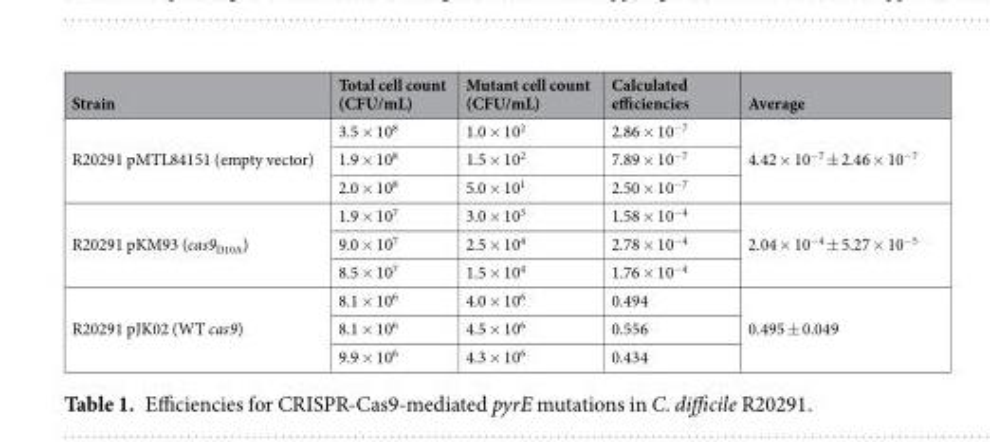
<table><thead><tr><td>Strain</td><td>Total cell count (CFU/mL)</td><td>Mutant cell count (CFU/mL)</td><td>Calculated efficiencies</td><td>Average</td></tr></thead><tbody><tr><td rowspan="3">R20291 pMTL84151 (empty vector)</td><td>3.5 × 10<sup>8</sup></td><td>1.0 × 10<sup>2</sup></td><td>2.86 × 10<sup>−7</sup></td><td rowspan="3">4.42 × 10<sup>−7</sup> ± 2.46 × 10<sup>−7</sup></td></tr><tr><td>1.9 × 10<sup>8</sup></td><td>1.5 × 10<sup>2</sup></td><td>7.89 × 10<sup>−7</sup></td></tr><tr><td>2.0 × 10<sup>8</sup></td><td>5.0 × 10<sup>1</sup></td><td>2.50 × 10<sup>−7</sup></td></tr><tr><td rowspan="3">R20291 pKM93 (cas9<sub>D10A</sub>)</td><td>1.9 × 10<sup>7</sup></td><td>3.0 × 10<sup>3</sup></td><td>1.58 × 10<sup>−4</sup></td><td rowspan="3">2.04 × 10<sup>−4</sup> ± 5.27 × 10<sup>−5</sup></td></tr><tr><td>9.0 × 10<sup>7</sup></td><td>2.5 × 10<sup>4</sup></td><td>2.78 × 10<sup>−4</sup></td></tr><tr><td>8.5 × 10<sup>7</sup></td><td>1.5 × 10<sup>4</sup></td><td>1.76 × 10<sup>−4</sup></td></tr><tr><td rowspan="3">R20291 pJK02 (WT cas9)</td><td>8.1 × 10<sup>6</sup></td><td>4.0 × 10<sup>6</sup></td><td>0.494</td><td rowspan="3">0.495 ± 0.049</td></tr><tr><td>8.1 × 10<sup>6</sup></td><td>4.5 × 10<sup>6</sup></td><td>0.556</td></tr><tr><td>9.9 × 10<sup>6</sup></td><td>4.3 × 10<sup>6</sup></td><td>0.434</td></tr></tbody></table>